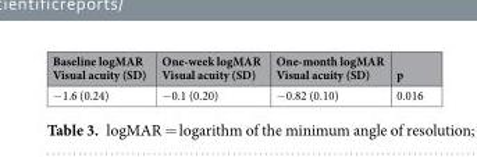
<table><thead><tr><td>Baseline logMAR Visual acuity (SD)</td><td>One-week logMAR Visual acuity (SD)</td><td>One-month logMAR Visual acuity (SD)</td><td>p</td></tr></thead><tbody><tr><td>−1.6 (0.24)</td><td>−0.1 (0.20)</td><td>−0.82 (0.10)</td><td>0.016</td></tr></tbody></table>